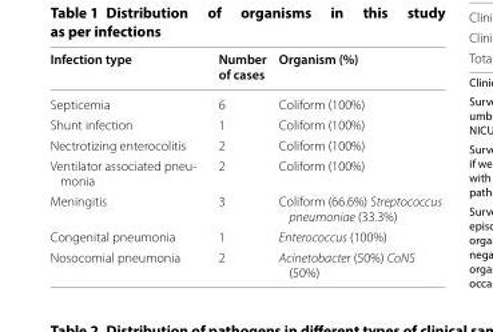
<table><thead><tr><td>Infection type</td><td>Number of cases</td><td>Organism (%)</td></tr></thead><tbody><tr><td>Septicemia</td><td>6</td><td>Coliform (100%)</td></tr><tr><td>Shunt infection</td><td>1</td><td>Coliform (100%)</td></tr><tr><td>Nectrotizing enterocolitis</td><td>2</td><td>Coliform (100%)</td></tr><tr><td>Ventilator associated pneu- monia</td><td>2</td><td>Coliform (100%)</td></tr><tr><td>Meningitis</td><td>3</td><td>Coliform (66.6%) Streptococcus pneumoniae (33.3%)</td></tr><tr><td>Congenital pneumonia</td><td>1</td><td>Enterococcus (100%)</td></tr><tr><td>Nosocomial pneumonia</td><td>2</td><td>Acinetobacter (50%) CoNS (50%)</td></tr></tbody></table>